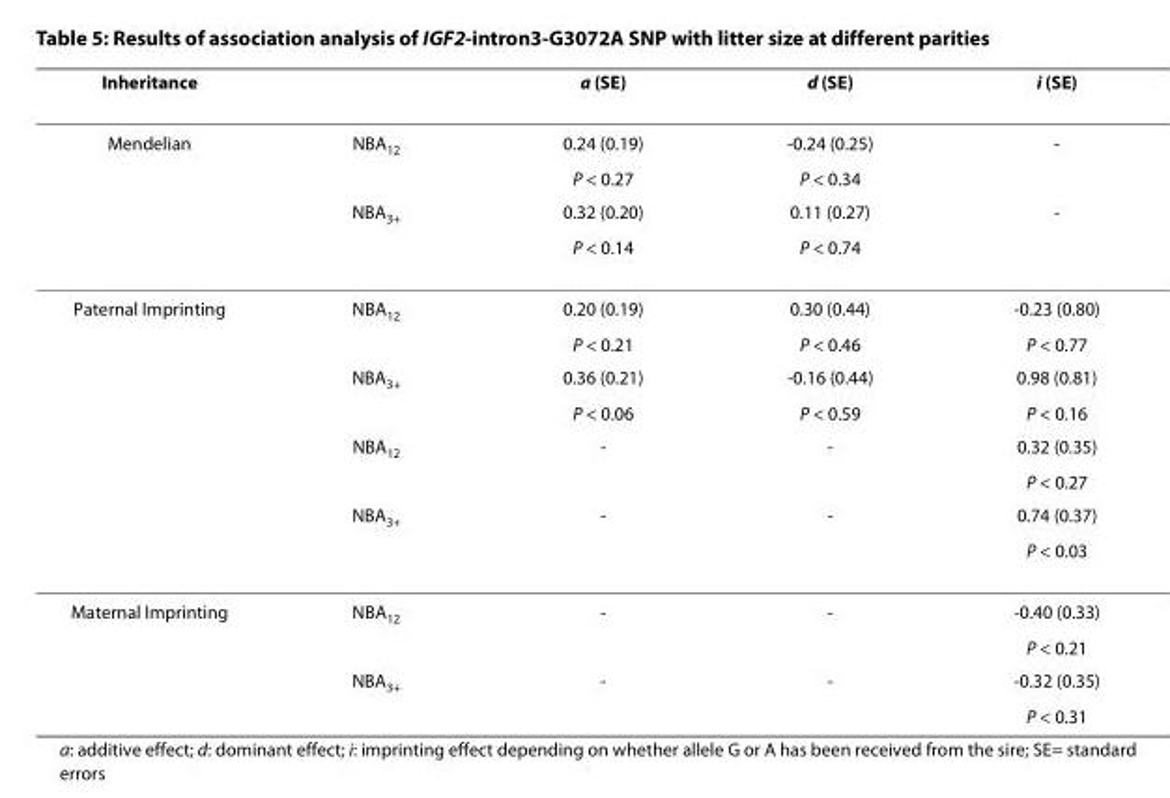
<table><thead><tr><td>Inheritance</td><td></td><td>a (SE)</td><td>d (SE)</td><td>i (SE)</td></tr></thead><tbody><tr><td rowspan="4">Mendelian</td><td>NBA<sub>12</sub></td><td>0.24 (0.19)</td><td>-0.24 (0.25)</td><td>-</td></tr><tr><td></td><td>P &lt; 0.27</td><td>P &lt; 0.34</td><td></td></tr><tr><td>NBA<sub>3+</sub></td><td>0.32 (0.20)</td><td>0.11 (0.27)</td><td>-</td></tr><tr><td></td><td>P &lt; 0.14</td><td>P &lt; 0.74</td><td></td></tr><tr><td rowspan="8">Paternal Imprinting</td><td>NBA<sub>12</sub></td><td>0.20 (0.19)</td><td>0.30 (0.44)</td><td>-0.23 (0.80)</td></tr><tr><td></td><td>P &lt; 0.21</td><td>P &lt; 0.46</td><td>P &lt; 0.77</td></tr><tr><td>NBA<sub>3+</sub></td><td>0.36 (0.21)</td><td>-0.16 (0.44)</td><td>0.98 (0.81)</td></tr><tr><td></td><td>P &lt; 0.06</td><td>P &lt; 0.59</td><td>P &lt; 0.16</td></tr><tr><td>NBA<sub>12</sub></td><td>-</td><td>-</td><td>0.32 (0.35)</td></tr><tr><td></td><td></td><td></td><td>P &lt; 0.27</td></tr><tr><td>NBA<sub>3+</sub></td><td>-</td><td>-</td><td>0.74 (0.37)</td></tr><tr><td></td><td></td><td></td><td>P &lt; 0.03</td></tr><tr><td rowspan="4">Maternal Imprinting</td><td>NBA<sub>12</sub></td><td>-</td><td>-</td><td>-0.40 (0.33)</td></tr><tr><td></td><td></td><td></td><td>P &lt; 0.21</td></tr><tr><td>NBA<sub>3+</sub></td><td>-</td><td>-</td><td>-0.32 (0.35)</td></tr><tr><td></td><td></td><td></td><td>P &lt; 0.31</td></tr></tbody></table>